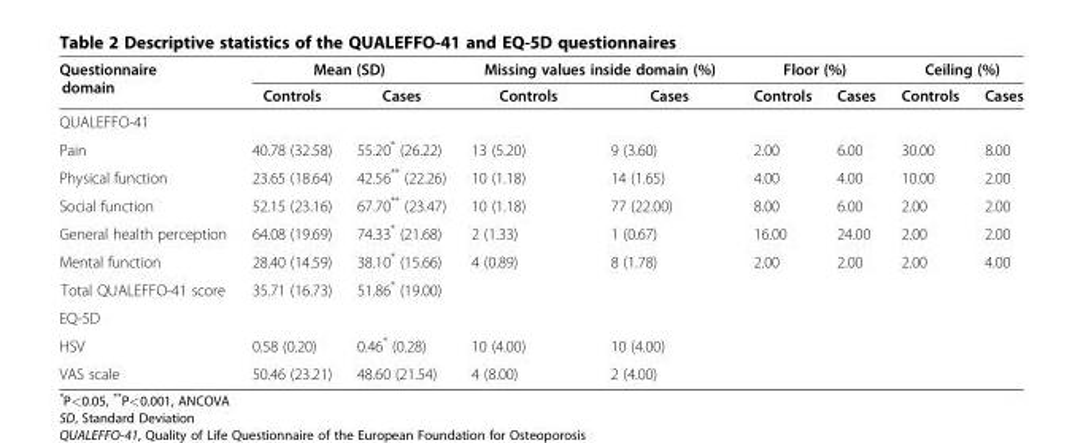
<table><thead><tr><td rowspan="2">Questionnaire domain</td><td colspan="2">Mean (SD)</td><td colspan="2">Missing values inside domain (%)</td><td colspan="2">Floor (%)</td><td colspan="2">Ceiling (%)</td></tr><tr><td>Controls</td><td>Cases</td><td>Controls</td><td>Cases</td><td>Controls</td><td>Cases</td><td>Controls</td><td>Cases</td></tr></thead><tbody><tr><td colspan="9">QUALEFFO-41</td></tr><tr><td>Pain</td><td>40.78 (32.58)</td><td>55.20* (26.22)</td><td>13 (5.20)</td><td>9 (3.60)</td><td>2.00</td><td>6.00</td><td>30.00</td><td>8.00</td></tr><tr><td>Physical function</td><td>23.65 (18.64)</td><td>42.56** (22.26)</td><td>10 (1.18)</td><td>14 (1.65)</td><td>4.00</td><td>4.00</td><td>10.00</td><td>2.00</td></tr><tr><td>Social function</td><td>52.15 (23.16)</td><td>67.70** (23.47)</td><td>10 (1.18)</td><td>77 (22.00)</td><td>8.00</td><td>6.00</td><td>2.00</td><td>2.00</td></tr><tr><td>General health perception</td><td>64.08 (19.69)</td><td>74.33* (21.68)</td><td>2 (1.33)</td><td>1 (0.67)</td><td>16.00</td><td>24.00</td><td>2.00</td><td>2.00</td></tr><tr><td>Mental function</td><td>28.40 (14.59)</td><td>38.10* (15.66)</td><td>4 (0.89)</td><td>8 (1.78)</td><td>2.00</td><td>2.00</td><td>2.00</td><td>4.00</td></tr><tr><td>Total QUALEFFO-41 score</td><td>35.71 (16.73)</td><td>51.86* (19.00)</td><td></td><td></td><td></td><td></td><td></td><td></td></tr><tr><td colspan="9">EQ-5D</td></tr><tr><td>HSV</td><td>0.58 (0.20)</td><td>0.46* (0.28)</td><td>10 (4.00)</td><td>10 (4.00)</td><td></td><td></td><td></td><td></td></tr><tr><td>VAS scale</td><td>50.46 (23.21)</td><td>48.60 (21.54)</td><td>4 (8.00)</td><td>2 (4.00)</td><td></td><td></td><td></td><td></td></tr></tbody></table>